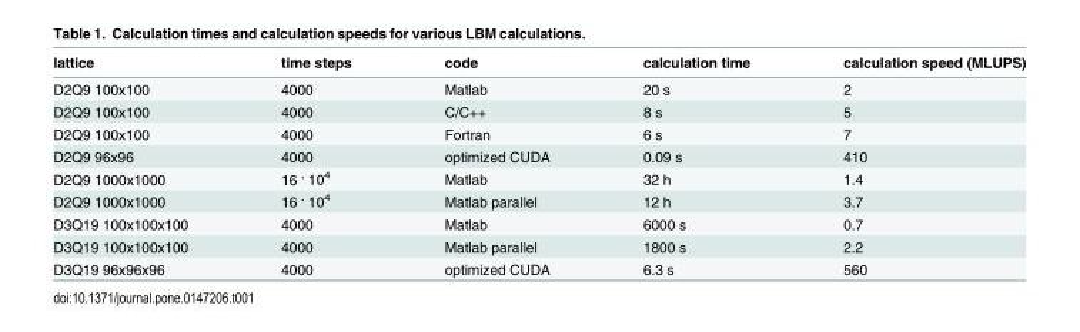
<table><thead><tr><td>lattice</td><td>time steps</td><td>code</td><td>calculation time</td><td>calculation speed (MLUPS)</td></tr></thead><tbody><tr><td>D2Q9 100x100</td><td>4000</td><td>Matlab</td><td>20 s</td><td>2</td></tr><tr><td>D2Q9 100x100</td><td>4000</td><td>C/C++</td><td>8 s</td><td>5</td></tr><tr><td>D2Q9 100x100</td><td>4000</td><td>Fortran</td><td>6 s</td><td>7</td></tr><tr><td>D2Q9 96x96</td><td>4000</td><td>optimized CUDA</td><td>0.09 s</td><td>410</td></tr><tr><td>D2Q9 1000x1000</td><td>16 <sup>.</sup> 10<sup>4</sup></td><td>Matlab</td><td>32 h</td><td>1.4</td></tr><tr><td>D2Q9 1000x1000</td><td>16 <sup>.</sup> 10<sup>4</sup></td><td>Matlab parallel</td><td>12 h</td><td>3.7</td></tr><tr><td>D3Q19 100x100x100</td><td>4000</td><td>Matlab</td><td>6000 s</td><td>0.7</td></tr><tr><td>D3Q19 100x100x100</td><td>4000</td><td>Matlab parallel</td><td>1800 s</td><td>2.2</td></tr><tr><td>D3Q19 96x96x96</td><td>4000</td><td>optimized CUDA</td><td>6.3 s</td><td>560</td></tr></tbody></table>